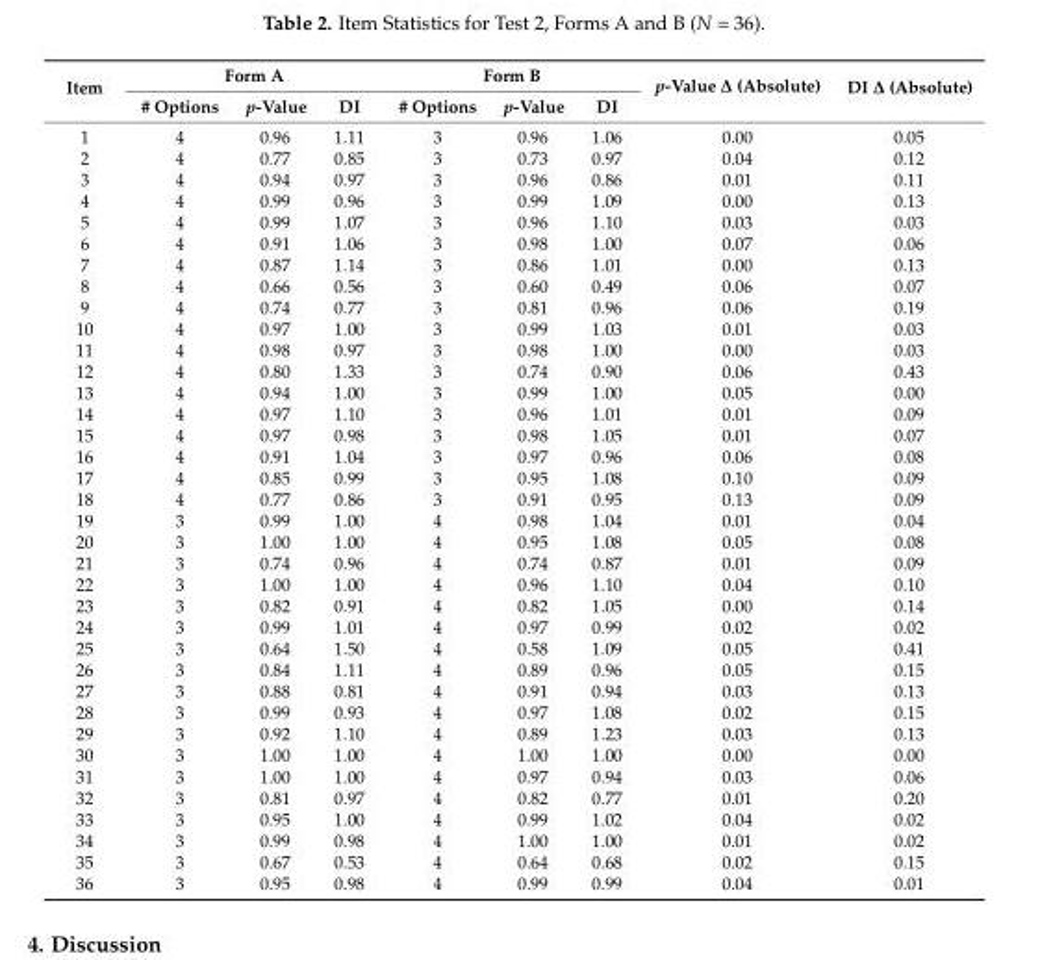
<table><thead><tr><td rowspan="2">Item</td><td colspan="3">Form A</td><td colspan="3">Form B</td><td rowspan="2">p-Value ∆ (Absolute)</td><td rowspan="2">DI ∆ (Absolute)</td></tr><tr><td># Options</td><td>p-Value</td><td>DI</td><td># Options</td><td>p-Value</td><td>DI</td></tr></thead><tbody><tr><td>1</td><td>4</td><td>0.96</td><td>1.11</td><td>3</td><td>0.96</td><td>1.06</td><td>0.00</td><td>0.05</td></tr><tr><td>2</td><td>4</td><td>0.77</td><td>0.85</td><td>3</td><td>0.73</td><td>0.97</td><td>0.04</td><td>0.12</td></tr><tr><td>3</td><td>4</td><td>0.94</td><td>0.97</td><td>3</td><td>0.96</td><td>0.86</td><td>0.01</td><td>0.11</td></tr><tr><td>4</td><td>4</td><td>0.99</td><td>0.96</td><td>3</td><td>0.99</td><td>1.09</td><td>0.00</td><td>0.13</td></tr><tr><td>5</td><td>4</td><td>0.99</td><td>1.07</td><td>3</td><td>0.96</td><td>1.10</td><td>0.03</td><td>0.03</td></tr><tr><td>6</td><td>4</td><td>0.91</td><td>1.06</td><td>3</td><td>0.98</td><td>1.00</td><td>0.07</td><td>0.06</td></tr><tr><td>7</td><td>4</td><td>0.87</td><td>1.14</td><td>3</td><td>0.86</td><td>1.01</td><td>0.00</td><td>0.13</td></tr><tr><td>8</td><td>4</td><td>0.66</td><td>0.56</td><td>3</td><td>0.60</td><td>0.49</td><td>0.06</td><td>0.07</td></tr><tr><td>9</td><td>4</td><td>0.74</td><td>0.77</td><td>3</td><td>0.81</td><td>0.96</td><td>0.06</td><td>0.19</td></tr><tr><td>10</td><td>4</td><td>0.97</td><td>1.00</td><td>3</td><td>0.99</td><td>1.03</td><td>0.01</td><td>0.03</td></tr><tr><td>11</td><td>4</td><td>0.98</td><td>0.97</td><td>3</td><td>0.98</td><td>1.00</td><td>0.00</td><td>0.03</td></tr><tr><td>12</td><td>4</td><td>0.80</td><td>1.33</td><td>3</td><td>0.74</td><td>0.90</td><td>0.06</td><td>0.43</td></tr><tr><td>13</td><td>4</td><td>0.94</td><td>1.00</td><td>3</td><td>0.99</td><td>1.00</td><td>0.05</td><td>0.00</td></tr><tr><td>14</td><td>4</td><td>0.97</td><td>1.10</td><td>3</td><td>0.96</td><td>1.01</td><td>0.01</td><td>0.09</td></tr><tr><td>15</td><td>4</td><td>0.97</td><td>0.98</td><td>3</td><td>0.98</td><td>1.05</td><td>0.01</td><td>0.07</td></tr><tr><td>16</td><td>4</td><td>0.91</td><td>1.04</td><td>3</td><td>0.97</td><td>0.96</td><td>0.06</td><td>0.08</td></tr><tr><td>17</td><td>4</td><td>0.85</td><td>0.99</td><td>3</td><td>0.95</td><td>1.08</td><td>0.10</td><td>0.09</td></tr><tr><td>18</td><td>4</td><td>0.77</td><td>0.86</td><td>3</td><td>0.91</td><td>0.95</td><td>0.13</td><td>0.09</td></tr><tr><td>19</td><td>3</td><td>0.99</td><td>1.00</td><td>4</td><td>0.98</td><td>1.04</td><td>0.01</td><td>0.04</td></tr><tr><td>20</td><td>3</td><td>1.00</td><td>1.00</td><td>4</td><td>0.95</td><td>1.08</td><td>0.05</td><td>0.08</td></tr><tr><td>21</td><td>3</td><td>0.74</td><td>0.96</td><td>4</td><td>0.74</td><td>0.87</td><td>0.01</td><td>0.09</td></tr><tr><td>22</td><td>3</td><td>1.00</td><td>1.00</td><td>4</td><td>0.96</td><td>1.10</td><td>0.04</td><td>0.10</td></tr><tr><td>23</td><td>3</td><td>0.82</td><td>0.91</td><td>4</td><td>0.82</td><td>1.05</td><td>0.00</td><td>0.14</td></tr><tr><td>24</td><td>3</td><td>0.99</td><td>1.01</td><td>4</td><td>0.97</td><td>0.99</td><td>0.02</td><td>0.02</td></tr><tr><td>25</td><td>3</td><td>0.64</td><td>1.50</td><td>4</td><td>0.58</td><td>1.09</td><td>0.05</td><td>0.41</td></tr><tr><td>26</td><td>3</td><td>0.84</td><td>1.11</td><td>4</td><td>0.89</td><td>0.96</td><td>0.05</td><td>0.15</td></tr><tr><td>27</td><td>3</td><td>0.88</td><td>0.81</td><td>4</td><td>0.91</td><td>0.94</td><td>0.03</td><td>0.13</td></tr><tr><td>28</td><td>3</td><td>0.99</td><td>0.93</td><td>4</td><td>0.97</td><td>1.08</td><td>0.02</td><td>0.15</td></tr><tr><td>29</td><td>3</td><td>0.92</td><td>1.10</td><td>4</td><td>0.89</td><td>1.23</td><td>0.03</td><td>0.13</td></tr><tr><td>30</td><td>3</td><td>1.00</td><td>1.00</td><td>4</td><td>1.00</td><td>1.00</td><td>0.00</td><td>0.00</td></tr><tr><td>31</td><td>3</td><td>1.00</td><td>1.00</td><td>4</td><td>0.97</td><td>0.94</td><td>0.03</td><td>0.06</td></tr><tr><td>32</td><td>3</td><td>0.81</td><td>0.97</td><td>4</td><td>0.82</td><td>0.77</td><td>0.01</td><td>0.20</td></tr><tr><td>33</td><td>3</td><td>0.95</td><td>1.00</td><td>4</td><td>0.99</td><td>1.02</td><td>0.04</td><td>0.02</td></tr><tr><td>34</td><td>3</td><td>0.99</td><td>0.98</td><td>4</td><td>1.00</td><td>1.00</td><td>0.01</td><td>0.02</td></tr><tr><td>35</td><td>3</td><td>0.67</td><td>0.53</td><td>4</td><td>0.64</td><td>0.68</td><td>0.02</td><td>0.15</td></tr><tr><td>36</td><td>3</td><td>0.95</td><td>0.98</td><td>4</td><td>0.99</td><td>0.99</td><td>0.04</td><td>0.01</td></tr></tbody></table>